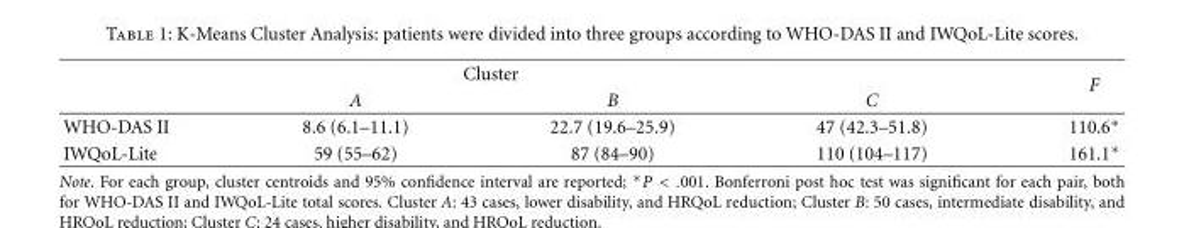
<table><thead><tr><td rowspan="2"></td><td colspan="2">Cluster</td><td rowspan="2">C</td><td rowspan="2">F</td></tr><tr><td>A</td><td>B</td></tr></thead><tbody><tr><td>WHO-DAS II</td><td>8.6 (6.1–11.1)</td><td>22.7 (19.6–25.9)</td><td>47 (42.3–51.8)</td><td>110.6∗</td></tr><tr><td>IWQoL-Lite</td><td>59 (55–62)</td><td>87 (84–90)</td><td>110 (104–117)</td><td>161.1∗</td></tr></tbody></table>